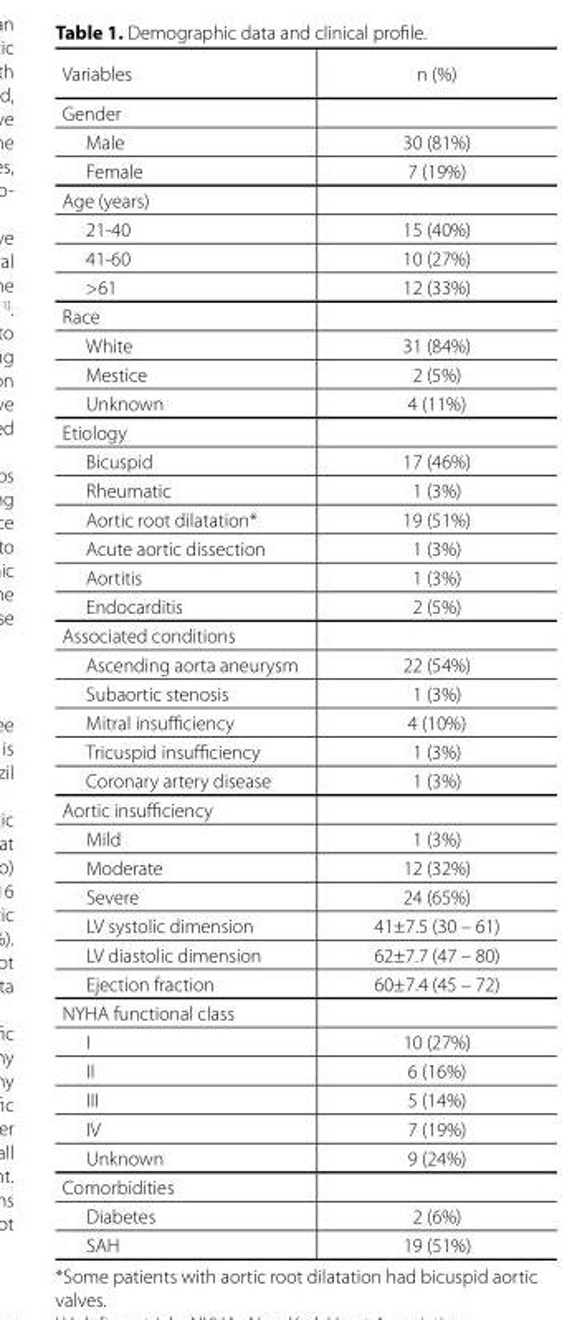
<table><thead><tr><td>Variables</td><td>n (%)</td></tr></thead><tbody><tr><td colspan="2">Gender</td></tr><tr><td>Male</td><td>30 (81%)</td></tr><tr><td>Female</td><td>7 (19%)</td></tr><tr><td colspan="2">Age (years)</td></tr><tr><td>21-40</td><td>15 (40%)</td></tr><tr><td>41-60</td><td>10 (27%)</td></tr><tr><td>&gt;61</td><td>12 (33%)</td></tr><tr><td colspan="2">Race</td></tr><tr><td>White</td><td>31 (84%)</td></tr><tr><td>Mestice</td><td>2 (5%)</td></tr><tr><td>Unknown</td><td>4 (11%)</td></tr><tr><td colspan="2">Etiology</td></tr><tr><td>Bicuspid</td><td>17 (46%)</td></tr><tr><td>Rheumatic</td><td>1 (3%)</td></tr><tr><td>Aortic root dilatation*</td><td>19 (51%)</td></tr><tr><td>Acute aortic dissection</td><td>1 (3%)</td></tr><tr><td>Aortitis</td><td>1 (3%)</td></tr><tr><td>Endocarditis</td><td>2 (5%)</td></tr><tr><td colspan="2">Associated conditions</td></tr><tr><td>Ascending aorta aneurysm</td><td>22 (54%)</td></tr><tr><td>Subaortic stenosis</td><td>1 (3%)</td></tr><tr><td>Mitral insufficiency</td><td>4 (10%)</td></tr><tr><td>Tricuspid insufficiency</td><td>1 (3%)</td></tr><tr><td>Coronary artery disease</td><td>1 (3%)</td></tr><tr><td colspan="2">Aortic insufficiency</td></tr><tr><td>Mild</td><td>1 (3%)</td></tr><tr><td>Moderate</td><td>12 (32%)</td></tr><tr><td>Severe</td><td>24 (65%)</td></tr><tr><td>LV systolic dimension</td><td>41±7.5 (30 – 61)</td></tr><tr><td>LV diastolic dimension</td><td>62±7.7 (47 – 80)</td></tr><tr><td>Ejection fraction</td><td>60±7.4 (45 – 72)</td></tr><tr><td colspan="2">NYHA functional class</td></tr><tr><td>I</td><td>10 (27%)</td></tr><tr><td>II</td><td>6 (16%)</td></tr><tr><td>III</td><td>5 (14%)</td></tr><tr><td>IV</td><td>7 (19%)</td></tr><tr><td>Unknown</td><td>9 (24%)</td></tr><tr><td colspan="2">Comorbidities</td></tr><tr><td>Diabetes</td><td>2 (6%)</td></tr><tr><td>SAH</td><td>19 (51%)</td></tr></tbody></table>